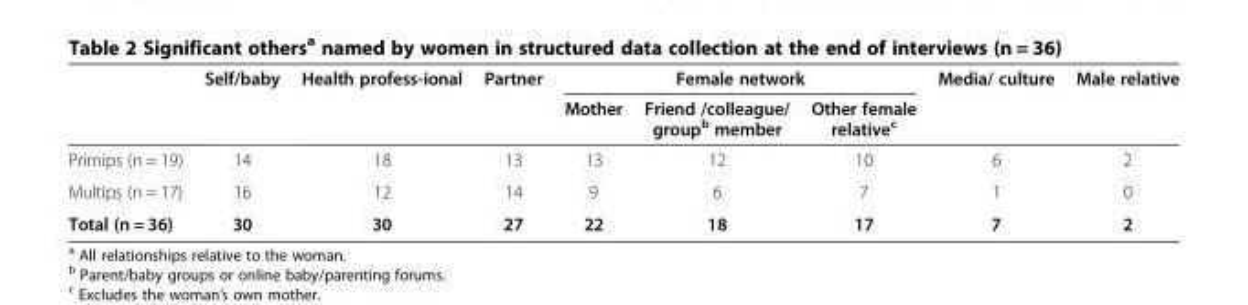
<table><thead><tr><td rowspan="2"></td><td rowspan="2">Self/baby</td><td rowspan="2">Health profess-ional</td><td rowspan="2">Partner</td><td colspan="3">Female network</td><td rowspan="2">Media/ culture</td><td rowspan="2">Male relative</td></tr><tr><td>Mother</td><td>Friend /colleague/ group<sup>b</sup> member</td><td>Other female relative<sup>c</sup></td></tr></thead><tbody><tr><td>Primips (n = 19)</td><td>14</td><td>18</td><td>13</td><td>13</td><td>12</td><td>10</td><td>6</td><td>2</td></tr><tr><td>Multips (n = 17)</td><td>16</td><td>12</td><td>14</td><td>9</td><td>6</td><td>7</td><td>1</td><td>0</td></tr><tr><td>Total (n = 36)</td><td>30</td><td>30</td><td>27</td><td>22</td><td>18</td><td>17</td><td>7</td><td>2</td></tr></tbody></table>